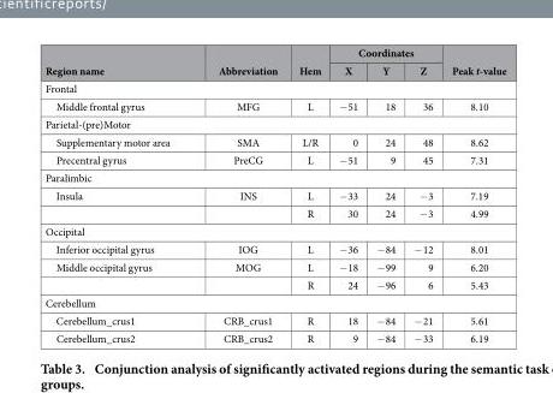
<table><thead><tr><td rowspan="2">Region name</td><td rowspan="2">Abbreviation</td><td rowspan="2">Hem</td><td colspan="3">Coordinates</td><td rowspan="2">Peak t-value</td></tr><tr><td>X</td><td>Y</td><td>Z</td></tr></thead><tbody><tr><td colspan="7">Frontal</td></tr><tr><td>Middle frontal gyrus</td><td>MFG</td><td>L</td><td>− 51</td><td>18</td><td>36</td><td>8.10</td></tr><tr><td colspan="7">Parietal-(pre)Motor</td></tr><tr><td>Supplementary motor area</td><td>SMA</td><td>L/R</td><td>0</td><td>24</td><td>48</td><td>8.62</td></tr><tr><td>Precentral gyrus</td><td>PreCG</td><td>L</td><td>− 51</td><td>9</td><td>45</td><td>7.31</td></tr><tr><td colspan="7">Paralimbic</td></tr><tr><td rowspan="2">Insula</td><td>INS</td><td>L</td><td>− 33</td><td>24</td><td>− 3</td><td>7.19</td></tr><tr><td></td><td>R</td><td>30</td><td>24</td><td>− 3</td><td>4.99</td></tr><tr><td colspan="7">Occipital</td></tr><tr><td>Inferior occipital gyrus</td><td>IOG</td><td>L</td><td>− 36</td><td>− 84</td><td>− 12</td><td>8.01</td></tr><tr><td rowspan="2">Middle occipital gyrus</td><td>MOG</td><td>L</td><td>− 18</td><td>− 99</td><td>9</td><td>6.20</td></tr><tr><td></td><td>R</td><td>24</td><td>− 96</td><td>6</td><td>5.43</td></tr><tr><td colspan="7">Cerebellum</td></tr><tr><td>Cerebellum_crus1</td><td>CRB_crus1</td><td>R</td><td>18</td><td>− 84</td><td>− 21</td><td>5.61</td></tr><tr><td>Cerebellum_crus2</td><td>CRB_crus2</td><td>R</td><td>9</td><td>− 84</td><td>− 33</td><td>6.19</td></tr></tbody></table>